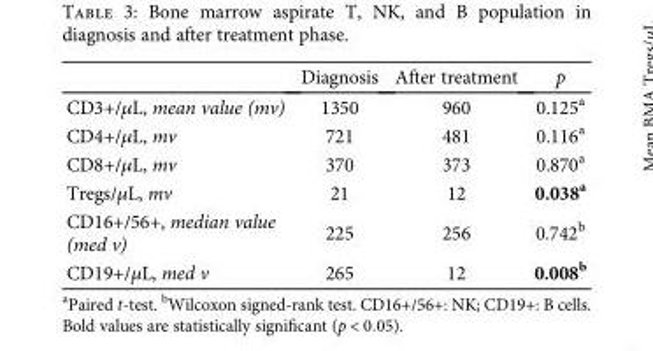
<table><thead><tr><td></td><td>Diagnosis</td><td>After treatment</td><td>p</td></tr></thead><tbody><tr><td>CD3+/μL, mean value (mv)</td><td>1350</td><td>960</td><td>0.125<sup>a</sup></td></tr><tr><td>CD4+/μL, mv</td><td>721</td><td>481</td><td>0.116<sup>a</sup></td></tr><tr><td>CD8+/μL, mv</td><td>370</td><td>373</td><td>0.870<sup>a</sup></td></tr><tr><td>Tregs/μL, mv</td><td>21</td><td>12</td><td>0.038<sup>a</sup></td></tr><tr><td>CD16+/56+, median value (med v)</td><td>225</td><td>256</td><td>0.742<sup>b</sup></td></tr><tr><td>CD19+/μL, med v</td><td>265</td><td>12</td><td>0.008<sup>b</sup></td></tr></tbody></table>